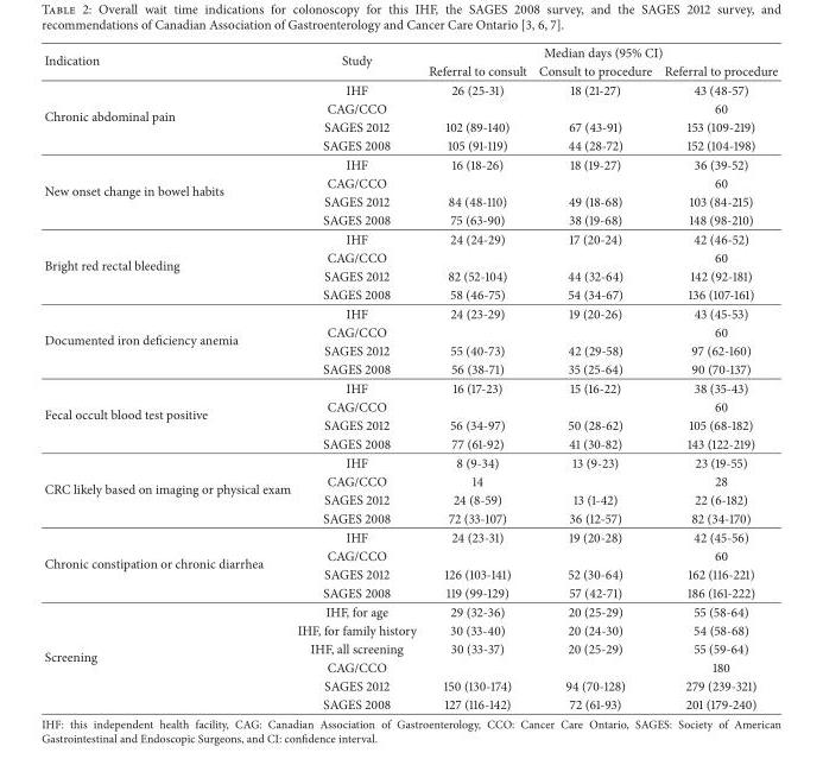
<table><thead><tr><td rowspan="2">Indication</td><td rowspan="2">Study</td><td colspan="3">Median days (95% CI)</td></tr><tr><td>Referral to consult</td><td>Consult to procedure</td><td>Referral to procedure</td></tr></thead><tbody><tr><td rowspan="4">Chronic abdominal pain</td><td>IHF</td><td>26 (25-31)</td><td>18 (21-27)</td><td>43 (48-57)</td></tr><tr><td>CAG/CCO</td><td></td><td></td><td>60</td></tr><tr><td>SAGES 2012</td><td>102 (89-140)</td><td>67 (43-91)</td><td>153 (109-219)</td></tr><tr><td>SAGES 2008</td><td>105 (91-119)</td><td>44 (28-72)</td><td>152 (104-198)</td></tr><tr><td rowspan="4">New onset change in bowel habits</td><td>IHF</td><td>16 (18-26)</td><td>18 (19-27)</td><td>36 (39-52)</td></tr><tr><td>CAG/CCO</td><td></td><td></td><td>60</td></tr><tr><td>SAGES 2012</td><td>84 (48-110)</td><td>49 (18-68)</td><td>103 (84-215)</td></tr><tr><td>SAGES 2008</td><td>75 (63-90)</td><td>38 (19-68)</td><td>148 (98-210)</td></tr><tr><td rowspan="4">Bright red rectal bleeding</td><td>IHF</td><td>24 (24-29)</td><td>17 (20-24)</td><td>42 (46-52)</td></tr><tr><td>CAG/CCO</td><td></td><td></td><td>60</td></tr><tr><td>SAGES 2012</td><td>82 (52-104)</td><td>44 (32-64)</td><td>142 (92-181)</td></tr><tr><td>SAGES 2008</td><td>58 (46-75)</td><td>54 (34-67)</td><td>136 (107-161)</td></tr><tr><td rowspan="4">Documented iron deficiency anemia</td><td>IHF</td><td>24 (23-29)</td><td>19 (20-26)</td><td>43 (45-53)</td></tr><tr><td>CAG/CCO</td><td></td><td></td><td>60</td></tr><tr><td>SAGES 2012</td><td>55 (40-73)</td><td>42 (29-58)</td><td>97 (62-160)</td></tr><tr><td>SAGES 2008</td><td>56 (38-71)</td><td>35 (25-64)</td><td>90 (70-137)</td></tr><tr><td rowspan="4">Fecal occult blood test positive</td><td>IHF</td><td>16 (17-23)</td><td>15 (16-22)</td><td>38 (35-43)</td></tr><tr><td>CAG/CCO</td><td></td><td></td><td>60</td></tr><tr><td>SAGES 2012</td><td>56 (34-97)</td><td>50 (28-62)</td><td>105 (68-182)</td></tr><tr><td>SAGES 2008</td><td>77 (61-92)</td><td>41 (30-82)</td><td>143 (122-219)</td></tr><tr><td rowspan="4">CRC likely based on imaging or physical exam</td><td>IHF</td><td>8 (9-34)</td><td>13 (9-23)</td><td>23 (19-55)</td></tr><tr><td>CAG/CCO</td><td>14</td><td></td><td>28</td></tr><tr><td>SAGES 2012</td><td>24 (8-59)</td><td>13 (1-42)</td><td>22 (6-182)</td></tr><tr><td>SAGES 2008</td><td>72 (33-107)</td><td>36 (12-57)</td><td>82 (34-170)</td></tr><tr><td rowspan="4">Chronic constipation or chronic diarrhea</td><td>IHF</td><td>24 (23-31)</td><td>19 (20-28)</td><td>42 (45-56)</td></tr><tr><td>CAG/CCO</td><td></td><td></td><td>60</td></tr><tr><td>SAGES 2012</td><td>126 (103-141)</td><td>52 (30-64)</td><td>162 (116-221)</td></tr><tr><td>SAGES 2008</td><td>119 (99-129)</td><td>57 (42-71)</td><td>186 (161-222)</td></tr><tr><td rowspan="6">Screening</td><td>IHF, for age</td><td>29 (32-36)</td><td>20 (25-29)</td><td>55 (58-64)</td></tr><tr><td>IHF, for family history</td><td>30 (33-40)</td><td>20 (24-30)</td><td>54 (58-68)</td></tr><tr><td>IHF, all screening</td><td>30 (33-37)</td><td>20 (25-29)</td><td>55 (59-64)</td></tr><tr><td>CAG/CCO</td><td></td><td></td><td>180</td></tr><tr><td>SAGES 2012</td><td>150 (130-174)</td><td>94 (70-128)</td><td>279 (239-321)</td></tr><tr><td>SAGES 2008</td><td>127 (116-142)</td><td>72 (61-93)</td><td>201 (179-240)</td></tr></tbody></table>